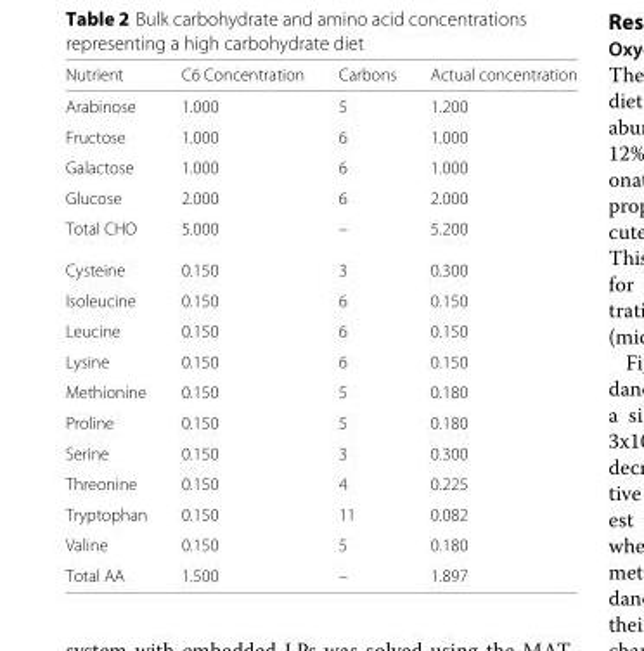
<table><thead><tr><td>Nutrient</td><td>C6 Concentration</td><td>Carbons</td><td>Actual concentration</td></tr></thead><tbody><tr><td>Arabinose</td><td>1.000</td><td>5</td><td>1.200</td></tr><tr><td>Fructose</td><td>1.000</td><td>6</td><td>1.000</td></tr><tr><td>Galactose</td><td>1.000</td><td>6</td><td>1.000</td></tr><tr><td>Glucose</td><td>2.000</td><td>6</td><td>2.000</td></tr><tr><td>Total CHO</td><td>5.000</td><td>–</td><td>5.200</td></tr><tr><td>Cysteine</td><td>0.150</td><td>3</td><td>0.300</td></tr><tr><td>Isoleucine</td><td>0.150</td><td>6</td><td>0.150</td></tr><tr><td>Leucine</td><td>0.150</td><td>6</td><td>0.150</td></tr><tr><td>Lysine</td><td>0.150</td><td>6</td><td>0.150</td></tr><tr><td>Methionine</td><td>0.150</td><td>5</td><td>0.180</td></tr><tr><td>Proline</td><td>0.150</td><td>5</td><td>0.180</td></tr><tr><td>Serine</td><td>0.150</td><td>3</td><td>0.300</td></tr><tr><td>Threonine</td><td>0.150</td><td>4</td><td>0.225</td></tr><tr><td>Tryptophan</td><td>0.150</td><td>11</td><td>0.082</td></tr><tr><td>Valine</td><td>0.150</td><td>5</td><td>0.180</td></tr><tr><td>Total AA</td><td>1.500</td><td>–</td><td>1.897</td></tr></tbody></table>